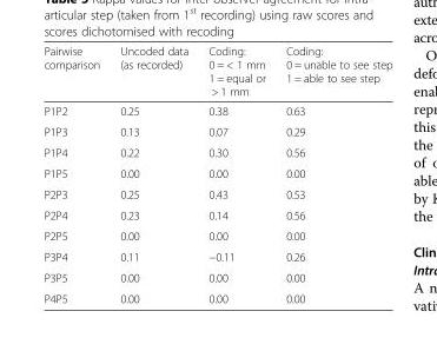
<table><thead><tr><td>Pairwise comparison</td><td>Uncoded data (as recorded)</td><td>Coding: 0 = &lt; 1 mm 1 = equal or &gt; 1 mm</td><td>Coding: 0 = unable to see step 1 = able to see step</td></tr></thead><tbody><tr><td>P1P2</td><td>0.25</td><td>0.38</td><td>0.63</td></tr><tr><td>P1P3</td><td>0.13</td><td>0.07</td><td>0.29</td></tr><tr><td>P1P4</td><td>0.22</td><td>0.30</td><td>0.56</td></tr><tr><td>P1P5</td><td>0.00</td><td>0.00</td><td>0.00</td></tr><tr><td>P2P3</td><td>0.25</td><td>0.43</td><td>0.53</td></tr><tr><td>P2P4</td><td>0.23</td><td>0.14</td><td>0.56</td></tr><tr><td>P2P5</td><td>0.00</td><td>0.00</td><td>0.00</td></tr><tr><td>P3P4</td><td>0.11</td><td>−0.11</td><td>0.26</td></tr><tr><td>P3P5</td><td>0.00</td><td>0.00</td><td>0.00</td></tr><tr><td>P4P5</td><td>0.00</td><td>0.00</td><td>0.00</td></tr></tbody></table>